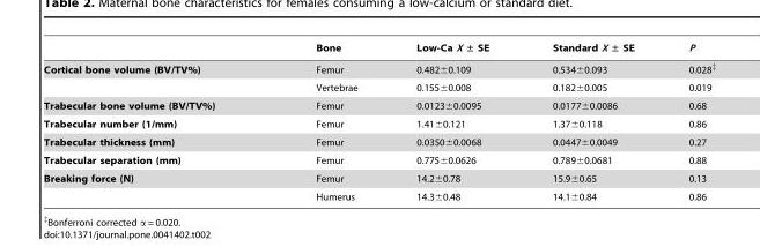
<table><thead><tr><td></td><td>Bone</td><td>Low-Ca X ± SE</td><td>Standard X ± SE</td><td>P</td></tr></thead><tbody><tr><td rowspan="2">Cortical bone volume (BV/TV%)</td><td>Femur</td><td>0.482±0.109</td><td>0.534±0.093</td><td>0.028‡</td></tr><tr><td>Vertebrae</td><td>0.155±0.008</td><td>0.182±0.005</td><td>0.019</td></tr><tr><td>Trabecular bone volume (BV/TV%)</td><td>Femur</td><td>0.0123±0.0095</td><td>0.0177±0.0086</td><td>0.68</td></tr><tr><td>Trabecular number (1/mm)</td><td>Femur</td><td>1.41±0.121</td><td>1.37±0.118</td><td>0.86</td></tr><tr><td>Trabecular thickness (mm)</td><td>Femur</td><td>0.0350±0.0068</td><td>0.0447±0.0049</td><td>0.27</td></tr><tr><td>Trabecular separation (mm)</td><td>Femur</td><td>0.775±0.0626</td><td>0.789±0.0681</td><td>0.88</td></tr><tr><td rowspan="2">Breaking force (N)</td><td>Femur</td><td>14.2±0.78</td><td>15.9±0.65</td><td>0.13</td></tr><tr><td>Humerus</td><td>14.3±0.48</td><td>14.1±0.84</td><td>0.86</td></tr></tbody></table>